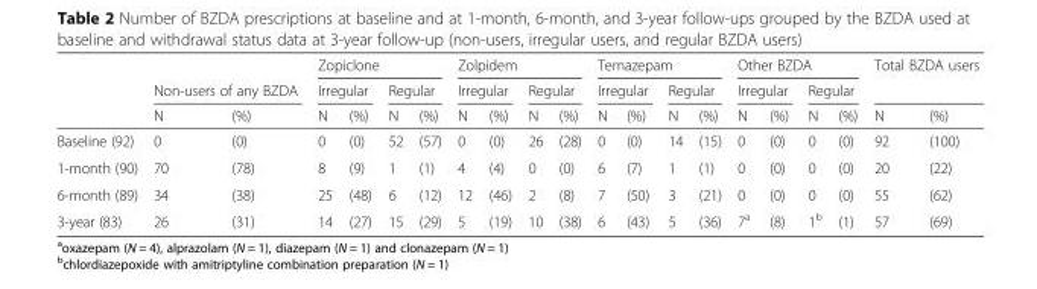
<table><thead><tr><td rowspan="3"></td><td></td><td></td><td colspan="4">Zopiclone</td><td colspan="4">Zolpidem</td><td colspan="4">Temazepam</td><td colspan="4">Other BZDA</td><td colspan="2">Total BZDA users</td></tr><tr><td colspan="2">Non-users of any BZDA</td><td colspan="2">Irregular</td><td colspan="2">Regular</td><td colspan="2">Irregular</td><td colspan="2">Regular</td><td colspan="2">Irregular</td><td colspan="2">Regular</td><td colspan="2">Irregular</td><td colspan="2">Regular</td><td rowspan="2">N</td><td rowspan="2">(%)</td></tr><tr><td>N</td><td>(%)</td><td>N</td><td>(%)</td><td>N</td><td>(%)</td><td>N</td><td>(%)</td><td>N</td><td>(%)</td><td>N</td><td>(%)</td><td>N</td><td>(%)</td><td>N</td><td>(%)</td><td>N</td><td>(%)</td></tr></thead><tbody><tr><td>Baseline (92)</td><td>0</td><td>(0)</td><td>0</td><td>(0)</td><td>52</td><td>(57)</td><td>0</td><td>(0)</td><td>26</td><td>(28)</td><td>0</td><td>(0)</td><td>14</td><td>(15)</td><td>0</td><td>(0)</td><td>0</td><td>(0)</td><td>92</td><td>(100)</td></tr><tr><td>1-month (90)</td><td>70</td><td>(78)</td><td>8</td><td>(9)</td><td>1</td><td>(1)</td><td>4</td><td>(4)</td><td>0</td><td>(0)</td><td>6</td><td>(7)</td><td>1</td><td>(1)</td><td>0</td><td>(0)</td><td>0</td><td>(0)</td><td>20</td><td>(22)</td></tr><tr><td>6-month (89)</td><td>34</td><td>(38)</td><td>25</td><td>(48)</td><td>6</td><td>(12)</td><td>12</td><td>(46)</td><td>2</td><td>(8)</td><td>7</td><td>(50)</td><td>3</td><td>(21)</td><td>0</td><td>(0)</td><td>0</td><td>(0)</td><td>55</td><td>(62)</td></tr><tr><td>3-year (83)</td><td>26</td><td>(31)</td><td>14</td><td>(27)</td><td>15</td><td>(29)</td><td>5</td><td>(19)</td><td>10</td><td>(38)</td><td>6</td><td>(43)</td><td>5</td><td>(36)</td><td>7<sup>a</sup></td><td>(8)</td><td>1<sup>b</sup></td><td>(1)</td><td>57</td><td>(69)</td></tr></tbody></table>